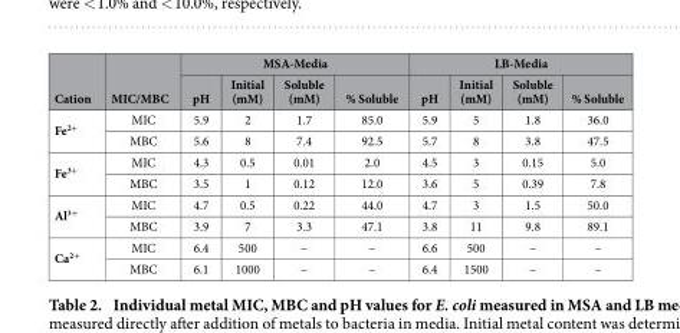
<table><thead><tr><td rowspan="2">Cation</td><td rowspan="2">MIC/MBC</td><td colspan="4">MSA-Media</td><td colspan="4">LB-Media</td></tr><tr><td>pH</td><td>Initial (mM)</td><td>Soluble (mM)</td><td>% Soluble</td><td>pH</td><td>Initial (mM)</td><td>Soluble (mM)</td><td>% Soluble</td></tr></thead><tbody><tr><td rowspan="2">Fe<sup>2+</sup></td><td>MIC</td><td>5.9</td><td>2</td><td>1.7</td><td>85.0</td><td>5.9</td><td>5</td><td>1.8</td><td>36.0</td></tr><tr><td>MBC</td><td>5.6</td><td>8</td><td>7.4</td><td>92.5</td><td>5.7</td><td>8</td><td>3.8</td><td>47.5</td></tr><tr><td rowspan="2">Fe<sup>3+</sup></td><td>MIC</td><td>4.3</td><td>0.5</td><td>0.01</td><td>2.0</td><td>4.5</td><td>3</td><td>0.15</td><td>5.0</td></tr><tr><td>MBC</td><td>3.5</td><td>1</td><td>0.12</td><td>12.0</td><td>3.6</td><td>5</td><td>0.39</td><td>7.8</td></tr><tr><td rowspan="2">Al<sup>3+</sup></td><td>MIC</td><td>4.7</td><td>0.5</td><td>0.22</td><td>44.0</td><td>4.7</td><td>3</td><td>1.5</td><td>50.0</td></tr><tr><td>MBC</td><td>3.9</td><td>7</td><td>3.3</td><td>47.1</td><td>3.8</td><td>11</td><td>9.8</td><td>89.1</td></tr><tr><td rowspan="2">Ca<sup>2+</sup></td><td>MIC</td><td>6.4</td><td>500</td><td>–</td><td>–</td><td>6.6</td><td>500</td><td>–</td><td>–</td></tr><tr><td>MBC</td><td>6.1</td><td>1000</td><td>–</td><td>–</td><td>6.4</td><td>1500</td><td>–</td><td>–</td></tr></tbody></table>